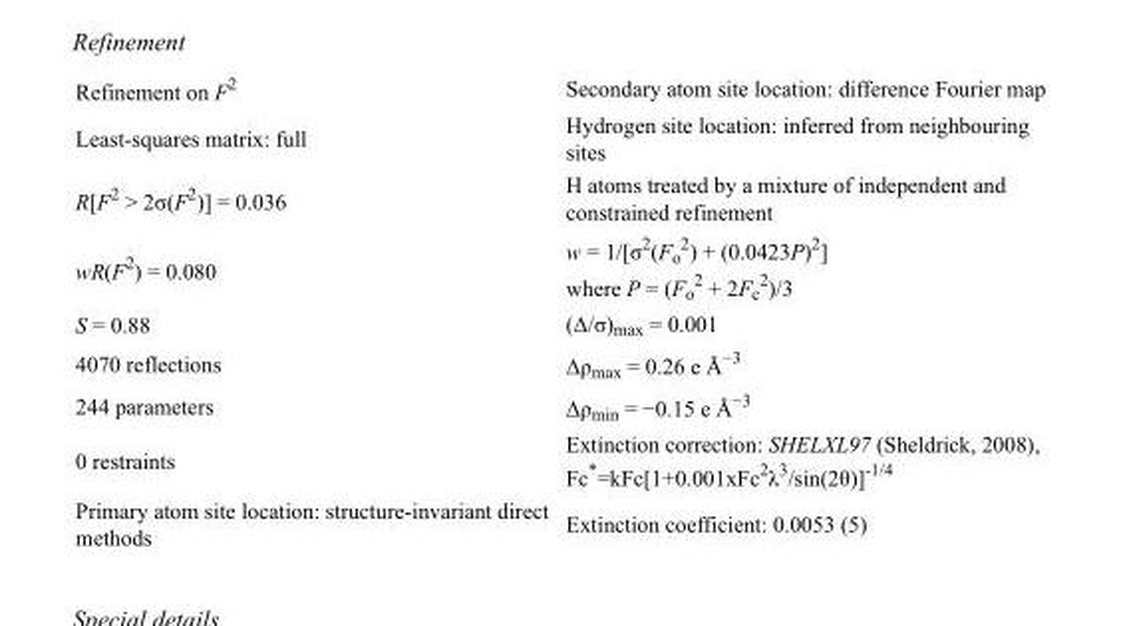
<table><tbody><tr><td>Refinement on F<sup>2</sup></td><td>Secondary atom site location: difference Fourier map</td></tr><tr><td>Least-squares matrix: full</td><td>Hydrogen site location: inferred from neighbouring sites</td></tr><tr><td>R[F<sup>2</sup> &gt; 2σ(F<sup>2</sup>)] = 0.036</td><td>H atoms treated by a mixture of independent and constrained refinement</td></tr><tr><td>wR(F<sup>2</sup>) = 0.080</td><td>w = 1/[σ<sup>2</sup>(F<sub>o</sub> <sup>2</sup>) + (0.0423P)<sup>2</sup>] where P = (F<sub>o</sub> <sup>2</sup> + 2F<sub>c</sub> <sup>2</sup>)/3</td></tr><tr><td>S = 0.88</td><td>(Δ/σ)<sub>max</sub> = 0.001</td></tr><tr><td>4070 reflections</td><td>Δρ<sub>max</sub> = 0.26 e Å<sup>−3</sup></td></tr><tr><td>244 parameters</td><td>Δρ<sub>min</sub> = −0.15 e Å<sup>−3</sup></td></tr><tr><td>0 restraints</td><td>Extinction correction: SHELXL97 (Sheldrick, 2008), Fc*=kFc[1+0.001xFc<sup>2</sup>λ<sup>3</sup>/sin(2θ)]<sup>-1/4</sup></td></tr><tr><td>Primary atom site location: structure-invariant direct methods</td><td>Extinction coefficient: 0.0053 (5)</td></tr></tbody></table>